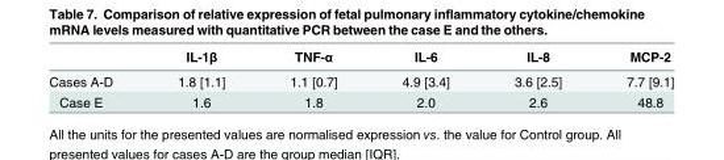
<table><thead><tr><td></td><td>IL-1β</td><td>TNF-α</td><td>IL-6</td><td>IL-8</td><td>MCP-2</td></tr></thead><tbody><tr><td>Cases A-D</td><td>1.8 [1.1]</td><td>1.1 [0.7]</td><td>4.9 [3.4]</td><td>3.6 [2.5]</td><td>7.7 [9.1]</td></tr><tr><td>Case E</td><td>1.6</td><td>1.8</td><td>2.0</td><td>2.6</td><td>48.8</td></tr></tbody></table>